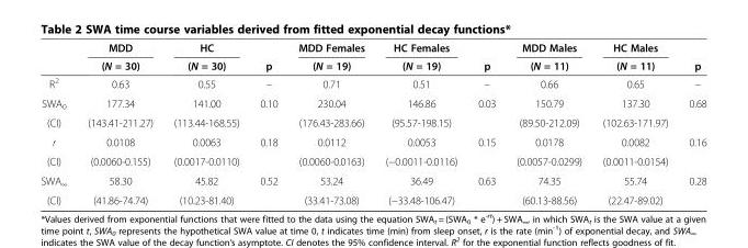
<table><thead><tr><td rowspan="2"></td><td rowspan="2">MDD (N = 30)</td><td rowspan="2">HC (N = 30)</td><td rowspan="2">p</td><td rowspan="2">MDD Females (N = 19)</td><td rowspan="2">HC Females (N = 19)</td><td rowspan="2">p</td><td rowspan="2">MDD Males (N = 11)</td><td rowspan="2">HC Males (N = 11)</td><td rowspan="2">p</td></tr><tr></tr></thead><tbody><tr><td>R<sup>2</sup></td><td>0.63</td><td>0.55</td><td>–</td><td>0.71</td><td>0.51</td><td>–</td><td>0.66</td><td>0.65</td><td>–</td></tr><tr><td>SWA<sub>0</sub></td><td>177.34</td><td>141.00</td><td>0.10</td><td>230.04</td><td>146.86</td><td>0.03</td><td>150.79</td><td>137.30</td><td>0.68</td></tr><tr><td>(CI)</td><td>(143.41-211.27)</td><td>(113.44-168.55)</td><td></td><td>(176.43-283.66)</td><td>(95.57-198.15)</td><td></td><td>(89.50-212.09)</td><td>(102.63-171.97)</td><td></td></tr><tr><td>r</td><td>0.0108</td><td>0.0063</td><td>0.18</td><td>0.0112</td><td>0.0053</td><td>0.15</td><td>0.0178</td><td>0.0082</td><td>0.16</td></tr><tr><td>(CI)</td><td>(0.0060-0.155)</td><td>(0.0017-0.0110)</td><td></td><td>(0.0060-0.0163)</td><td>(−0.0011-0.0116)</td><td></td><td>(0.0057-0.0299)</td><td>(0.0011-0.0154)</td><td></td></tr><tr><td>SWA<sub>∞</sub></td><td>58.30</td><td>45.82</td><td>0.52</td><td>53.24</td><td>36.49</td><td>0.63</td><td>74.35</td><td>55.74</td><td>0.28</td></tr><tr><td>(CI)</td><td>(41.86-74.74)</td><td>(10.23-81.40)</td><td></td><td>(33.41-73.08)</td><td>(−33.48-106.47)</td><td></td><td>(60.13-88.56)</td><td>(22.47-89.02)</td><td></td></tr></tbody></table>